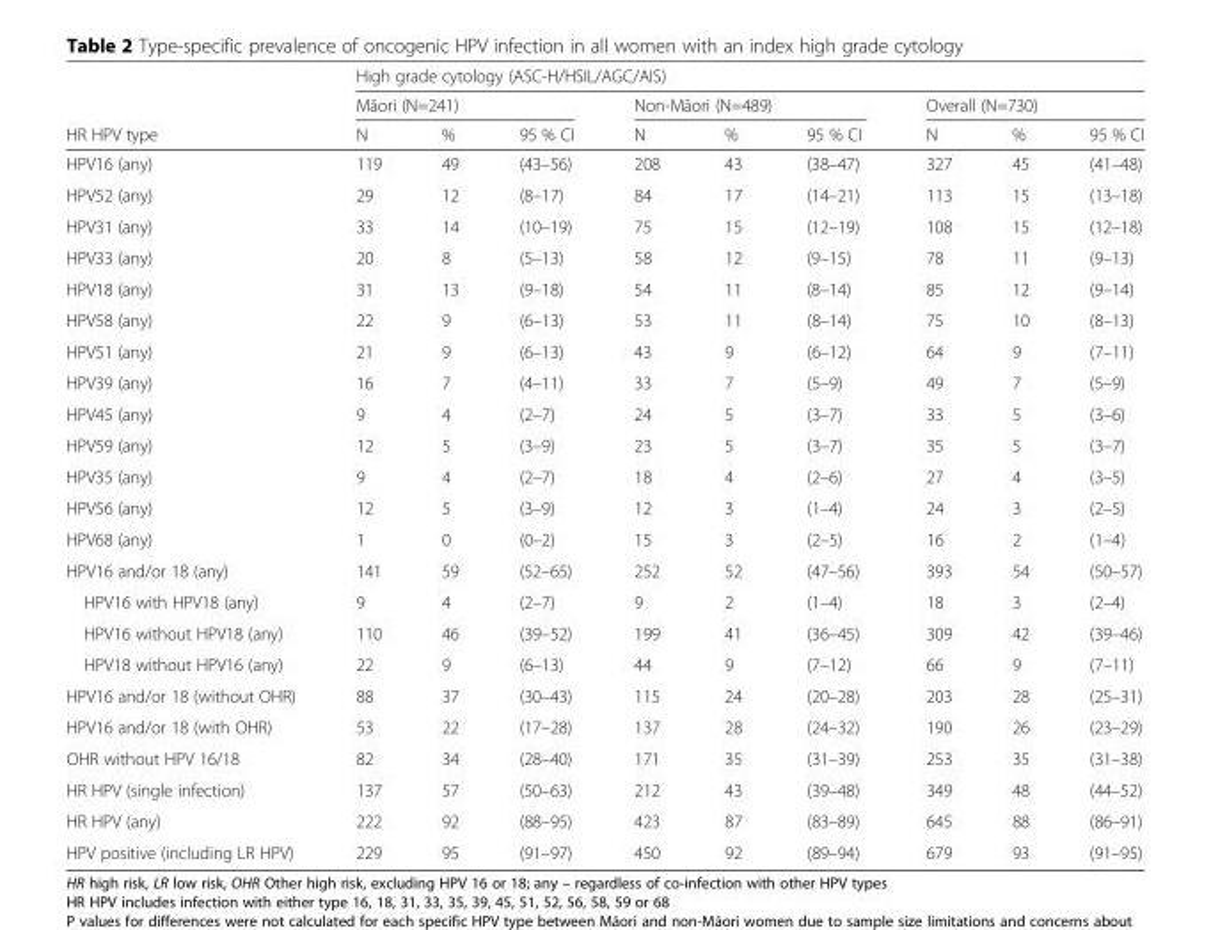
<table><thead><tr><td rowspan="3">HR HPV type</td><td colspan="9">High grade cytology (ASC-H/HSIL/AGC/AIS)</td></tr><tr><td colspan="3">Māori (N=241)</td><td colspan="3">Non-Māori (N=489)</td><td colspan="3">Overall (N=730)</td></tr><tr><td>N</td><td>%</td><td>95 % CI</td><td>N</td><td>%</td><td>95 % CI</td><td>N</td><td>%</td><td>95 % CI</td></tr></thead><tbody><tr><td>HPV16 (any)</td><td>119</td><td>49</td><td>(43–56)</td><td>208</td><td>43</td><td>(38–47)</td><td>327</td><td>45</td><td>(41–48)</td></tr><tr><td>HPV52 (any)</td><td>29</td><td>12</td><td>(8–17)</td><td>84</td><td>17</td><td>(14–21)</td><td>113</td><td>15</td><td>(13–18)</td></tr><tr><td>HPV31 (any)</td><td>33</td><td>14</td><td>(10–19)</td><td>75</td><td>15</td><td>(12–19)</td><td>108</td><td>15</td><td>(12–18)</td></tr><tr><td>HPV33 (any)</td><td>20</td><td>8</td><td>(5–13)</td><td>58</td><td>12</td><td>(9–15)</td><td>78</td><td>11</td><td>(9–13)</td></tr><tr><td>HPV18 (any)</td><td>31</td><td>13</td><td>(9–18)</td><td>54</td><td>11</td><td>(8–14)</td><td>85</td><td>12</td><td>(9–14)</td></tr><tr><td>HPV58 (any)</td><td>22</td><td>9</td><td>(6–13)</td><td>53</td><td>11</td><td>(8–14)</td><td>75</td><td>10</td><td>(8–13)</td></tr><tr><td>HPV51 (any)</td><td>21</td><td>9</td><td>(6–13)</td><td>43</td><td>9</td><td>(6–12)</td><td>64</td><td>9</td><td>(7–11)</td></tr><tr><td>HPV39 (any)</td><td>16</td><td>7</td><td>(4–11)</td><td>33</td><td>7</td><td>(5–9)</td><td>49</td><td>7</td><td>(5–9)</td></tr><tr><td>HPV45 (any)</td><td>9</td><td>4</td><td>(2–7)</td><td>24</td><td>5</td><td>(3–7)</td><td>33</td><td>5</td><td>(3–6)</td></tr><tr><td>HPV59 (any)</td><td>12</td><td>5</td><td>(3–9)</td><td>23</td><td>5</td><td>(3–7)</td><td>35</td><td>5</td><td>(3–7)</td></tr><tr><td>HPV35 (any)</td><td>9</td><td>4</td><td>(2–7)</td><td>18</td><td>4</td><td>(2–6)</td><td>27</td><td>4</td><td>(3–5)</td></tr><tr><td>HPV56 (any)</td><td>12</td><td>5</td><td>(3–9)</td><td>12</td><td>3</td><td>(1–4)</td><td>24</td><td>3</td><td>(2–5)</td></tr><tr><td>HPV68 (any)</td><td>1</td><td>0</td><td>(0–2)</td><td>15</td><td>3</td><td>(2–5)</td><td>16</td><td>2</td><td>(1–4)</td></tr><tr><td>HPV16 and/or 18 (any)</td><td>141</td><td>59</td><td>(52–65)</td><td>252</td><td>52</td><td>(47–56)</td><td>393</td><td>54</td><td>(50–57)</td></tr><tr><td>HPV16 with HPV18 (any)</td><td>9</td><td>4</td><td>(2–7)</td><td>9</td><td>2</td><td>(1–4)</td><td>18</td><td>3</td><td>(2–4)</td></tr><tr><td>HPV16 without HPV18 (any)</td><td>110</td><td>46</td><td>(39–52)</td><td>199</td><td>41</td><td>(36–45)</td><td>309</td><td>42</td><td>(39–46)</td></tr><tr><td>HPV18 without HPV16 (any)</td><td>22</td><td>9</td><td>(6–13)</td><td>44</td><td>9</td><td>(7–12)</td><td>66</td><td>9</td><td>(7–11)</td></tr><tr><td>HPV16 and/or 18 (without OHR)</td><td>88</td><td>37</td><td>(30–43)</td><td>115</td><td>24</td><td>(20–28)</td><td>203</td><td>28</td><td>(25–31)</td></tr><tr><td>HPV16 and/or 18 (with OHR)</td><td>53</td><td>22</td><td>(17–28)</td><td>137</td><td>28</td><td>(24–32)</td><td>190</td><td>26</td><td>(23–29)</td></tr><tr><td>OHR without HPV 16/18</td><td>82</td><td>34</td><td>(28–40)</td><td>171</td><td>35</td><td>(31–39)</td><td>253</td><td>35</td><td>(31–38)</td></tr><tr><td>HR HPV (single infection)</td><td>137</td><td>57</td><td>(50–63)</td><td>212</td><td>43</td><td>(39–48)</td><td>349</td><td>48</td><td>(44–52)</td></tr><tr><td>HR HPV (any)</td><td>222</td><td>92</td><td>(88–95)</td><td>423</td><td>87</td><td>(83–89)</td><td>645</td><td>88</td><td>(86–91)</td></tr><tr><td>HPV positive (including LR HPV)</td><td>229</td><td>95</td><td>(91–97)</td><td>450</td><td>92</td><td>(89–94)</td><td>679</td><td>93</td><td>(91–95)</td></tr></tbody></table>